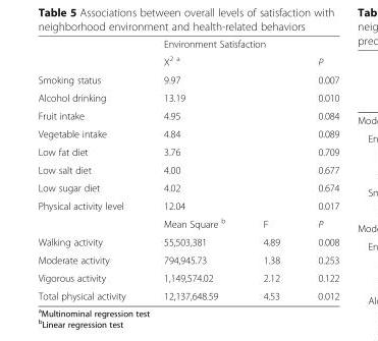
<table><thead><tr><td></td><td colspan="3">Environment Satisfaction</td></tr></thead><tbody><tr><td></td><td colspan="2">X<sup>2 a</sup></td><td>P</td></tr><tr><td>Smoking status</td><td colspan="2">9.97</td><td>0.007</td></tr><tr><td>Alcohol drinking</td><td colspan="2">13.19</td><td>0.010</td></tr><tr><td>Fruit intake</td><td colspan="2">4.95</td><td>0.084</td></tr><tr><td>Vegetable intake</td><td colspan="2">4.84</td><td>0.089</td></tr><tr><td>Low fat diet</td><td colspan="2">3.76</td><td>0.709</td></tr><tr><td>Low salt diet</td><td colspan="2">4.00</td><td>0.677</td></tr><tr><td>Low sugar diet</td><td colspan="2">4.02</td><td>0.674</td></tr><tr><td rowspan="2">Physical activity level</td><td colspan="2">12.04</td><td>0.017</td></tr><tr><td>Mean Square <sup>b</sup></td><td>F</td><td>P</td></tr><tr><td>Walking activity</td><td>55,503,381</td><td>4.89</td><td>0.008</td></tr><tr><td>Moderate activity</td><td>794,945.73</td><td>1.38</td><td>0.253</td></tr><tr><td>Vigorous activity</td><td>1,149,574.02</td><td>2.12</td><td>0.122</td></tr><tr><td>Total physical activity</td><td>12,137,648.59</td><td>4.53</td><td>0.012</td></tr></tbody></table>